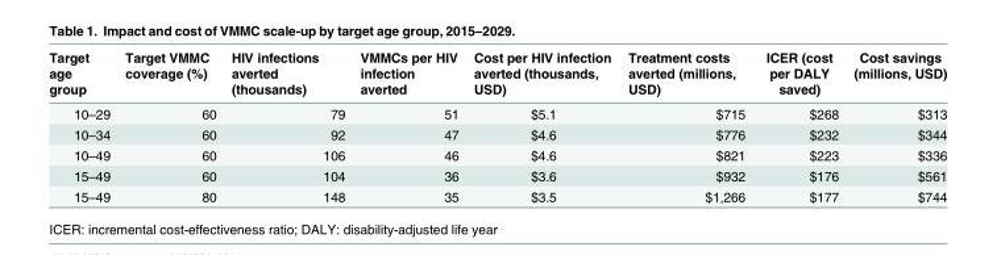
<table><thead><tr><td>Target age group</td><td>Target VMMC coverage (%)</td><td>HIV infections averted (thousands)</td><td>VMMCs per HIV infection averted</td><td>Cost per HIV infection averted (thousands, USD)</td><td>Treatment costs averted (millions, USD)</td><td>ICER (cost per DALY saved)</td><td>Cost savings (millions, USD)</td></tr></thead><tbody><tr><td>10–29</td><td>60</td><td>79</td><td>51</td><td>$5.1</td><td>$715</td><td>$268</td><td>$313</td></tr><tr><td>10–34</td><td>60</td><td>92</td><td>47</td><td>$4.6</td><td>$776</td><td>$232</td><td>$344</td></tr><tr><td>10–49</td><td>60</td><td>106</td><td>46</td><td>$4.6</td><td>$821</td><td>$223</td><td>$336</td></tr><tr><td>15–49</td><td>60</td><td>104</td><td>36</td><td>$3.6</td><td>$932</td><td>$176</td><td>$561</td></tr><tr><td>15–49</td><td>80</td><td>148</td><td>35</td><td>$3.5</td><td>$1,266</td><td>$177</td><td>$744</td></tr></tbody></table>